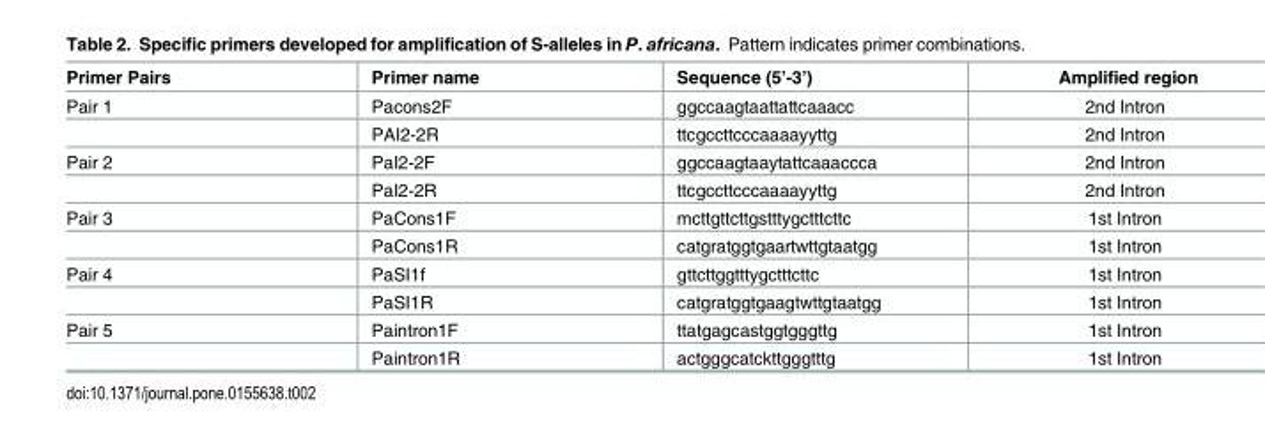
<table><thead><tr><td>Primer Pairs</td><td>Primer name</td><td>Sequence (5’-3’)</td><td>Amplified region</td></tr></thead><tbody><tr><td rowspan="2">Pair 1</td><td>Pacons2F</td><td>ggccaagtaattattcaaacc</td><td>2nd Intron</td></tr><tr><td>PAI2-2R</td><td>ttcgccttcccaaaayyttg</td><td>2nd Intron</td></tr><tr><td rowspan="2">Pair 2</td><td>PaI2-2F</td><td>ggccaagtaaytattcaaaccca</td><td>2nd Intron</td></tr><tr><td>PaI2-2R</td><td>ttcgccttcccaaaayyttg</td><td>2nd Intron</td></tr><tr><td rowspan="2">Pair 3</td><td>PaCons1F</td><td>mcttgttcttgstttygctttcttc</td><td>1st Intron</td></tr><tr><td>PaCons1R</td><td>catgratggtgaartwttgtaatgg</td><td>1st Intron</td></tr><tr><td rowspan="2">Pair 4</td><td>PaSI1f</td><td>gttcttggtttygctttcttc</td><td>1st Intron</td></tr><tr><td>PaSI1R</td><td>catgratggtgaagtwttgtaatgg</td><td>1st Intron</td></tr><tr><td rowspan="2">Pair 5</td><td>Paintron1F</td><td>ttatgagcastggtgggttg</td><td>1st Intron</td></tr><tr><td>Paintron1R</td><td>actgggcatckttgggtttg</td><td>1st Intron</td></tr></tbody></table>